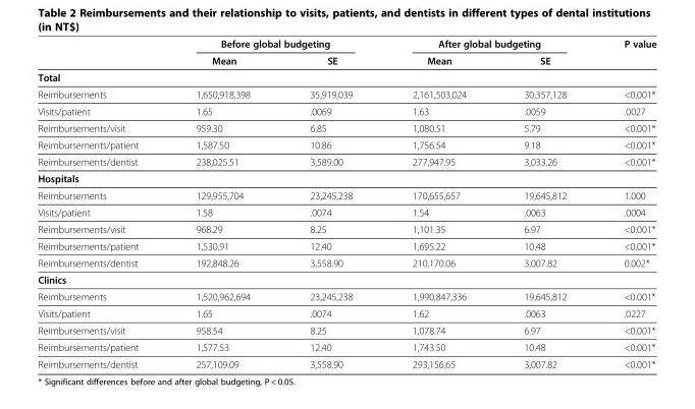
<table><thead><tr><td rowspan="2"></td><td colspan="2">Before global budgeting</td><td colspan="2">After global budgeting</td><td rowspan="2">P value</td></tr><tr><td>Mean</td><td>SE</td><td>Mean</td><td>SE</td></tr></thead><tbody><tr><td colspan="6">Total</td></tr><tr><td>Reimbursements</td><td>1,650,918,398</td><td>35,919,039</td><td>2,161,503,024</td><td>30,357,128</td><td>&lt;0.001*</td></tr><tr><td>Visits/patient</td><td>1.65</td><td>.0069</td><td>1.63</td><td>.0059</td><td>.0027</td></tr><tr><td>Reimbursements/visit</td><td>959.30</td><td>6.85</td><td>1,080.51</td><td>5.79</td><td>&lt;0.001*</td></tr><tr><td>Reimbursements/patient</td><td>1,587.50</td><td>10.86</td><td>1,756.54</td><td>9.18</td><td>&lt;0.001*</td></tr><tr><td>Reimbursements/dentist</td><td>238,025.51</td><td>3,589.00</td><td>277,947.95</td><td>3,033.26</td><td>&lt;0.001*</td></tr><tr><td colspan="6">Hospitals</td></tr><tr><td>Reimbursements</td><td>129,955,704</td><td>23,245,238</td><td>170,655,657</td><td>19,645,812</td><td>1.000</td></tr><tr><td>Visits/patient</td><td>1.58</td><td>.0074</td><td>1.54</td><td>.0063</td><td>.0004</td></tr><tr><td>Reimbursements/visit</td><td>968.29</td><td>8.25</td><td>1,101.35</td><td>6.97</td><td>&lt;0.001*</td></tr><tr><td>Reimbursements/patient</td><td>1,530.91</td><td>12.40</td><td>1,695.22</td><td>10.48</td><td>&lt;0.001*</td></tr><tr><td>Reimbursements/dentist</td><td>192,848.26</td><td>3,558.90</td><td>210,170.06</td><td>3,007.82</td><td>0.002*</td></tr><tr><td colspan="6">Clinics</td></tr><tr><td>Reimbursements</td><td>1,520,962,694</td><td>23,245,238</td><td>1,990,847,336</td><td>19,645,812</td><td>&lt;0.001*</td></tr><tr><td>Visits/patient</td><td>1.65</td><td>.0074</td><td>1.62</td><td>.0063</td><td>.0227</td></tr><tr><td>Reimbursements/visit</td><td>958.54</td><td>8.25</td><td>1,078.74</td><td>6.97</td><td>&lt;0.001*</td></tr><tr><td>Reimbursements/patient</td><td>1,577.53</td><td>12.40</td><td>1,743.50</td><td>10.48</td><td>&lt;0.001*</td></tr><tr><td>Reimbursements/dentist</td><td>257,109.09</td><td>3,558.90</td><td>293,156.65</td><td>3,007.82</td><td>&lt;0.001*</td></tr></tbody></table>